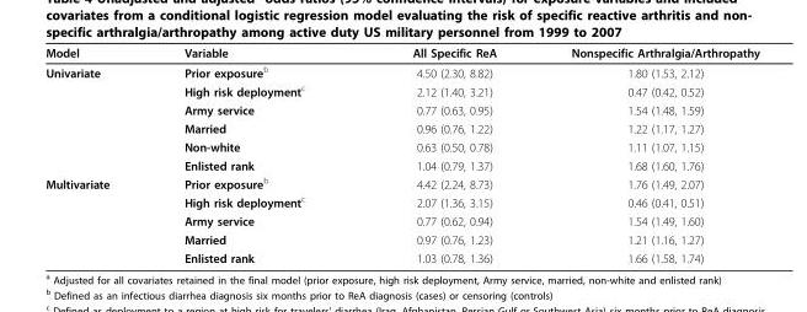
<table><thead><tr><td>Model</td><td>Variable</td><td>All Specific ReA</td><td>Nonspecific Arthralgia/Arthropathy</td></tr></thead><tbody><tr><td rowspan="6">Univariate</td><td>Prior exposure<sup>b</sup></td><td>4.50 (2.30, 8.82)</td><td>1.80 (1.53, 2.12)</td></tr><tr><td>High risk deployment<sup>c</sup></td><td>2.12 (1.40, 3.21)</td><td>0.47 (0.42, 0.52)</td></tr><tr><td>Army service</td><td>0.77 (0.63, 0.95)</td><td>1.54 (1.48, 1.59)</td></tr><tr><td>Married</td><td>0.96 (0.76, 1.22)</td><td>1.22 (1.17, 1.27)</td></tr><tr><td>Non-white</td><td>0.63 (0.50, 0.78)</td><td>1.11 (1.07, 1.15)</td></tr><tr><td>Enlisted rank</td><td>1.04 (0.79, 1.37)</td><td>1.68 (1.60, 1.76)</td></tr><tr><td rowspan="5">Multivariate</td><td>Prior exposure<sup>b</sup></td><td>4.42 (2.24, 8.73)</td><td>1.76 (1.49, 2.07)</td></tr><tr><td>High risk deployment<sup>c</sup></td><td>2.07 (1.36, 3.15)</td><td>0.46 (0.41, 0.51)</td></tr><tr><td>Army service</td><td>0.77 (0.62, 0.94)</td><td>1.54 (1.49, 1.60)</td></tr><tr><td>Married</td><td>0.97 (0.76, 1.23)</td><td>1.21 (1.16, 1.27)</td></tr><tr><td>Enlisted rank</td><td>1.03 (0.78, 1.36)</td><td>1.66 (1.58, 1.74)</td></tr></tbody></table>